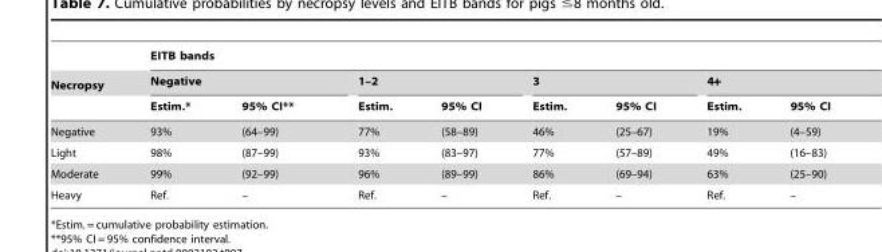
<table><thead><tr><td rowspan="3">Necropsy</td><td colspan="8">EITB bands</td></tr><tr><td colspan="2">Negative</td><td colspan="2">1–2</td><td colspan="2">3</td><td colspan="2">4+</td></tr><tr><td>Estim.*</td><td>95% CI**</td><td>Estim.</td><td>95% CI</td><td>Estim.</td><td>95% CI</td><td>Estim.</td><td>95% CI</td></tr></thead><tbody><tr><td>Negative</td><td>93%</td><td>(64–99)</td><td>77%</td><td>(58–89)</td><td>46%</td><td>(25–67)</td><td>19%</td><td>(4–59)</td></tr><tr><td>Light</td><td>98%</td><td>(87–99)</td><td>93%</td><td>(83–97)</td><td>77%</td><td>(57–89)</td><td>49%</td><td>(16–83)</td></tr><tr><td>Moderate</td><td>99%</td><td>(92–99)</td><td>96%</td><td>(89–99)</td><td>86%</td><td>(69–94)</td><td>63%</td><td>(25–90)</td></tr><tr><td>Heavy</td><td>Ref.</td><td>–</td><td>Ref.</td><td>–</td><td>Ref.</td><td>–</td><td>Ref.</td><td>–</td></tr></tbody></table>